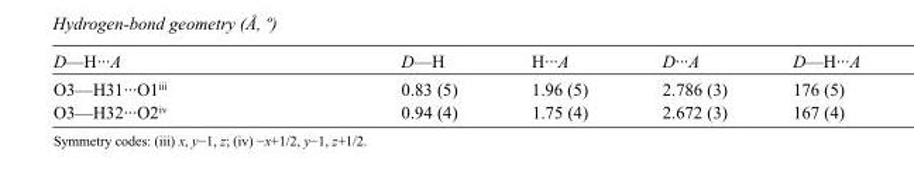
<table><tbody><tr><td>D—H···A</td><td>D—H</td><td>H···A</td><td>D···A</td><td>D—H···A</td></tr><tr><td>O3—H31···O1<sup>iii</sup></td><td>0.83 (5)</td><td>1.96 (5)</td><td>2.786 (3)</td><td>176 (5)</td></tr><tr><td>O3—H32···O2<sup>iv</sup></td><td>0.94 (4)</td><td>1.75 (4)</td><td>2.672 (3)</td><td>167 (4)</td></tr></tbody></table>